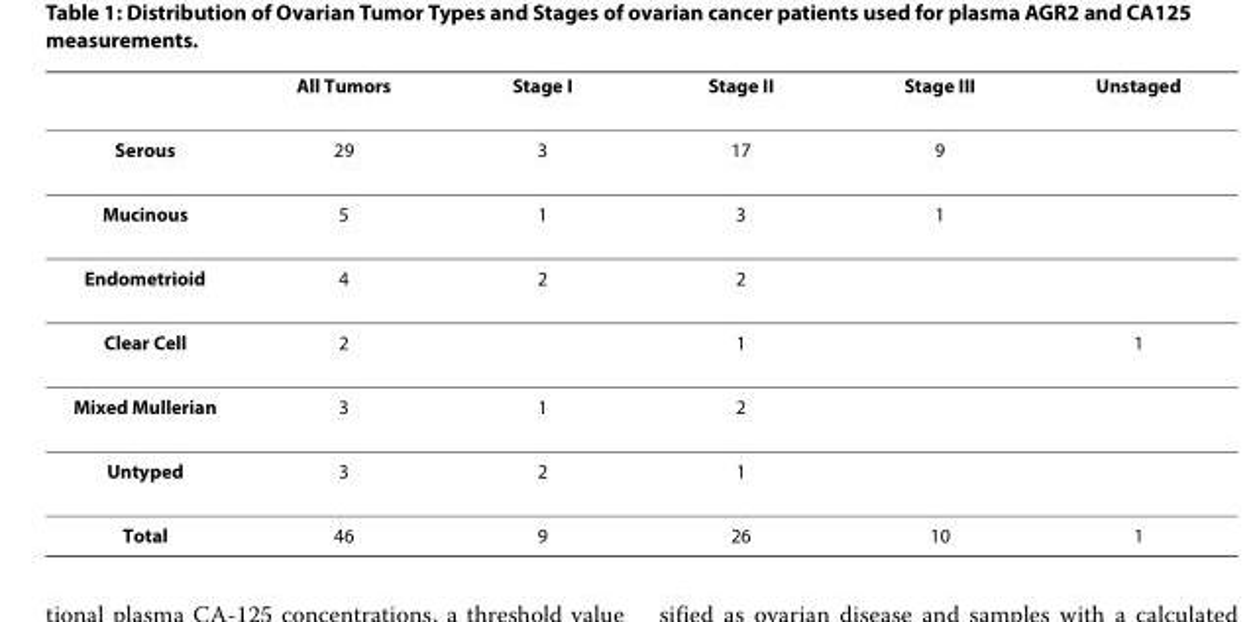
<table><thead><tr><td></td><td>All Tumors</td><td>Stage I</td><td>Stage II</td><td>Stage III</td><td>Unstaged</td></tr></thead><tbody><tr><td>Serous</td><td>29</td><td>3</td><td>17</td><td>9</td><td></td></tr><tr><td>Mucinous</td><td>5</td><td>1</td><td>3</td><td>1</td><td></td></tr><tr><td>Endometrioid</td><td>4</td><td>2</td><td>2</td><td></td><td></td></tr><tr><td>Clear Cell</td><td>2</td><td></td><td>1</td><td></td><td>1</td></tr><tr><td>Mixed Mullerian</td><td>3</td><td>1</td><td>2</td><td></td><td></td></tr><tr><td>Untyped</td><td>3</td><td>2</td><td>1</td><td></td><td></td></tr><tr><td>Total</td><td>46</td><td>9</td><td>26</td><td>10</td><td>1</td></tr></tbody></table>